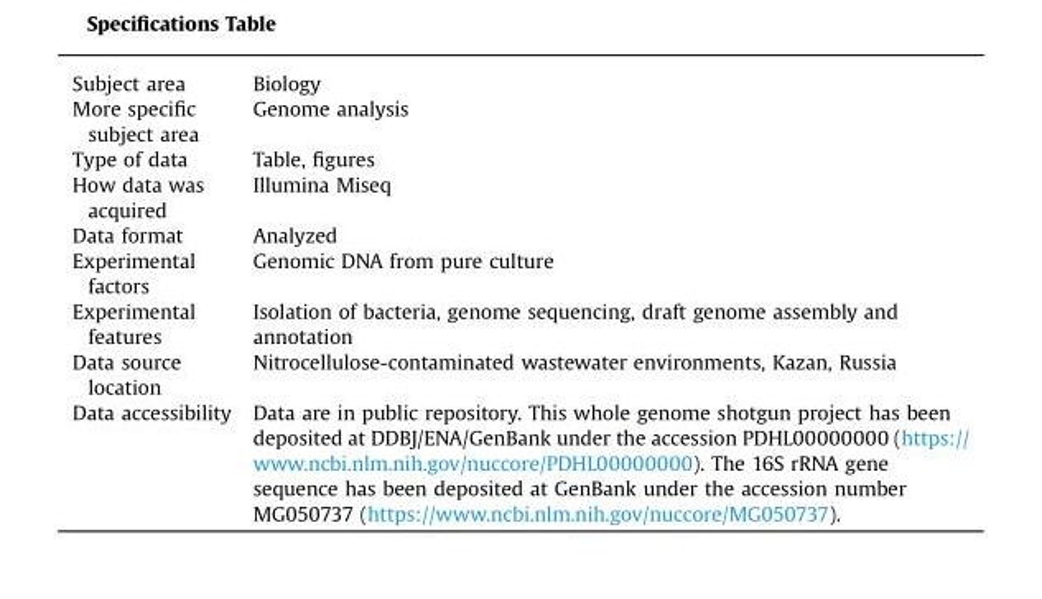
<table><tbody><tr><td>Subject area</td><td>Biology</td></tr><tr><td>More specific subject area</td><td>Genome analysis</td></tr><tr><td>Type of data</td><td>Table, figures</td></tr><tr><td>How data was acquired</td><td>Illumina Miseq</td></tr><tr><td>Data format</td><td>Analyzed</td></tr><tr><td>Experimental factors</td><td>Genomic DNA from pure culture</td></tr><tr><td>Experimental features</td><td>Isolation of bacteria, genome sequencing, draft genome assembly and annotation</td></tr><tr><td>Data source location</td><td>Nitrocellulose-contaminated wastewater environments, Kazan, Russia</td></tr><tr><td>Data accessibility</td><td>Data are in public repository. This whole genome shotgun project has been deposited at DDBJ/ENA/GenBank under the accession PDHL00000000 (https:// www.ncbi.nlm.nih.gov/nuccore/PDHL00000000). The 16S rRNA gene sequence has been deposited at GenBank under the accession number MG050737 (https://www.ncbi.nlm.nih.gov/nuccore/MG050737).</td></tr></tbody></table>